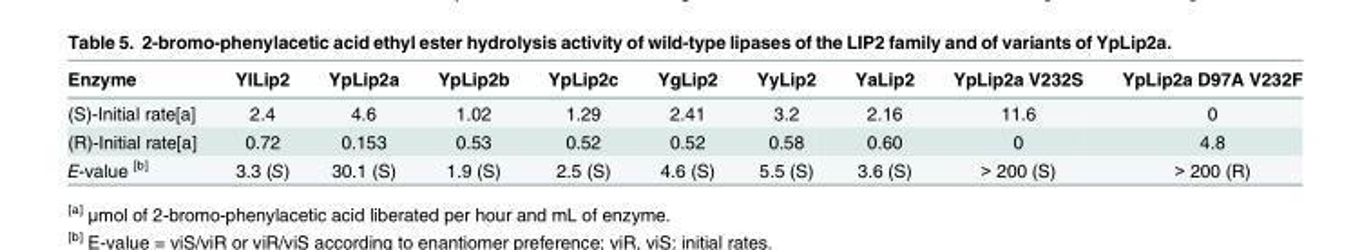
<table><thead><tr><td>Enzyme</td><td>YlLip2</td><td>YpLip2a</td><td>YpLip2b</td><td>YpLip2c</td><td>YgLip2</td><td>YyLip2</td><td>YaLip2</td><td>YpLip2a V232S</td><td>YpLip2a D97A V232F</td></tr></thead><tbody><tr><td>(S)-Initial rate[a]</td><td>2.4</td><td>4.6</td><td>1.02</td><td>1.29</td><td>2.41</td><td>3.2</td><td>2.16</td><td>11.6</td><td>0</td></tr><tr><td>(R)-Initial rate[a]</td><td>0.72</td><td>0.153</td><td>0.53</td><td>0.52</td><td>0.52</td><td>0.58</td><td>0.60</td><td>0</td><td>4.8</td></tr><tr><td>E-value <sup>[b]</sup></td><td>3.3 (S)</td><td>30.1 (S)</td><td>1.9 (S)</td><td>2.5 (S)</td><td>4.6 (S)</td><td>5.5 (S)</td><td>3.6 (S)</td><td>&gt; 200 (S)</td><td>&gt; 200 (R)</td></tr></tbody></table>